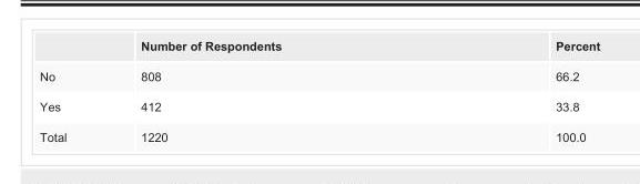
<table><thead><tr><td></td><td>Number of Respondents</td><td>Percent</td></tr></thead><tbody><tr><td>No</td><td>808</td><td>66.2</td></tr><tr><td>Yes</td><td>412</td><td>33.8</td></tr><tr><td>Total</td><td>1220</td><td>100.0</td></tr></tbody></table>